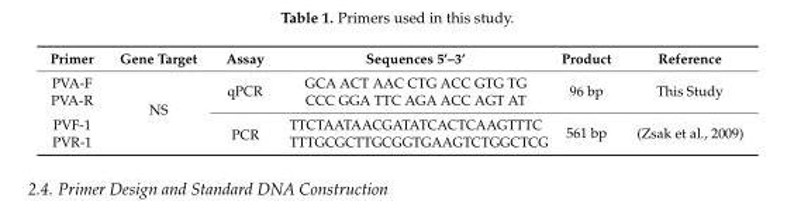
<table><thead><tr><td>Primer</td><td>Gene Target</td><td>Assay</td><td>Sequences 5’–3’</td><td>Product</td><td>Reference</td></tr></thead><tbody><tr><td>PVA-F</td><td rowspan="4">NS</td><td rowspan="2">qPCR</td><td>GCA ACT AAC CTG ACC GTG TG</td><td rowspan="2">96 bp</td><td rowspan="2">This Study</td></tr><tr><td>PVA-R</td><td>CCC GGA TTC AGA ACC AGT AT</td></tr><tr><td>PVF-1</td><td rowspan="2">PCR</td><td>TTCTAATAACGATATCACTCAAGTTTC</td><td rowspan="2">561 bp</td><td rowspan="2">(Zsak et al., 2009)</td></tr><tr><td>PVR-1</td><td>TTTGCGCTTGCGGTGAAGTCTGGCTCG</td></tr></tbody></table>